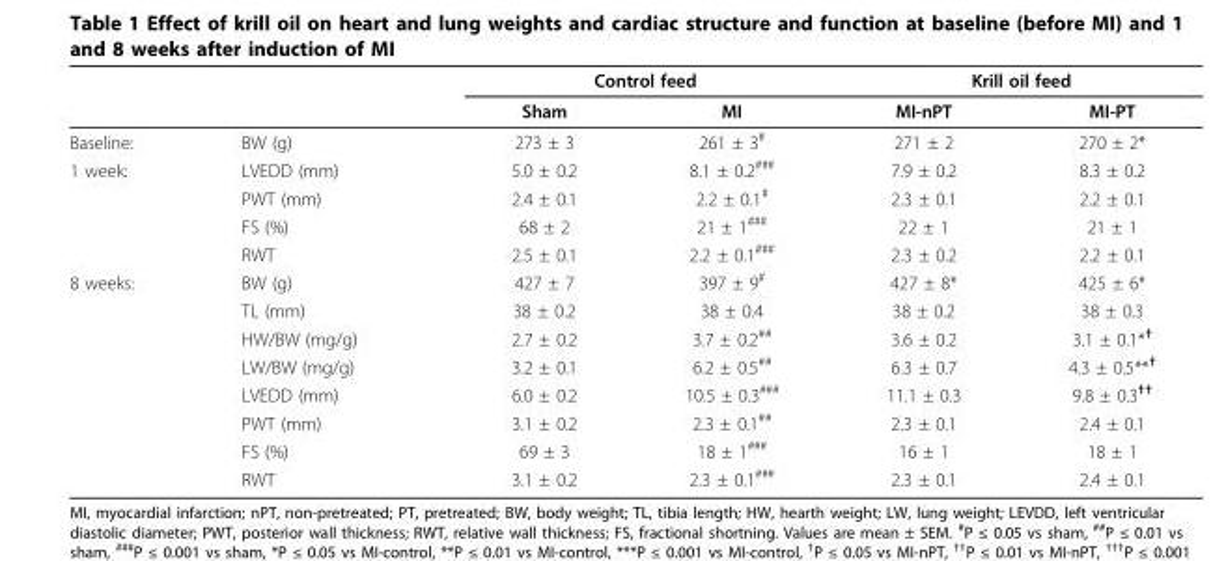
<table><thead><tr><td rowspan="2"></td><td rowspan="2"></td><td colspan="2">Control feed</td><td colspan="2">Krill oil feed</td></tr><tr><td>Sham</td><td>MI</td><td>MI-nPT</td><td>MI-PT</td></tr></thead><tbody><tr><td>Baseline:</td><td>BW (g)</td><td>273 ± 3</td><td>261 ± 3<sup>#</sup></td><td>271 ± 2</td><td>270 ± 2*</td></tr><tr><td rowspan="4">1 week:</td><td>LVEDD (mm)</td><td>5.0 ± 0.2</td><td>8.1 ± 0.2<sup>###</sup></td><td>7.9 ± 0.2</td><td>8.3 ± 0.2</td></tr><tr><td>PWT (mm)</td><td>2.4 ± 0.1</td><td>2.2 ± 0.1<sup>#</sup></td><td>2.3 ± 0.1</td><td>2.2 ± 0.1</td></tr><tr><td>FS (%)</td><td>68 ± 2</td><td>21 ± 1<sup>###</sup></td><td>22 ± 1</td><td>21 ± 1</td></tr><tr><td>RWT</td><td>2.5 ± 0.1</td><td>2.2 ± 0.1<sup>###</sup></td><td>2.3 ± 0.2</td><td>2.2 ± 0.1</td></tr><tr><td rowspan="8">8 weeks:</td><td>BW (g)</td><td>427 ± 7</td><td>397 ± 9<sup>#</sup></td><td>427 ± 8*</td><td>425 ± 6*</td></tr><tr><td>TL (mm)</td><td>38 ± 0.2</td><td>38 ± 0.4</td><td>38 ± 0.2</td><td>38 ± 0.3</td></tr><tr><td>HW/BW (mg/g)</td><td>2.7 ± 0.2</td><td>3.7 ± 0.2<sup>##</sup></td><td>3.6 ± 0.2</td><td>3.1 ± 0.1*<sup>†</sup></td></tr><tr><td>LW/BW (mg/g)</td><td>3.2 ± 0.1</td><td>6.2 ± 0.5<sup>##</sup></td><td>6.3 ± 0.7</td><td>4.3 ± 0.5**<sup>†</sup></td></tr><tr><td>LVEDD (mm)</td><td>6.0 ± 0.2</td><td>10.5 ± 0.3<sup>###</sup></td><td>11.1 ± 0.3</td><td>9.8 ± 0.3<sup>††</sup></td></tr><tr><td>PWT (mm)</td><td>3.1 ± 0.2</td><td>2.3 ± 0.1<sup>##</sup></td><td>2.3 ± 0.1</td><td>2.4 ± 0.1</td></tr><tr><td>FS (%)</td><td>69 ± 3</td><td>18 ± 1<sup>###</sup></td><td>16 ± 1</td><td>18 ± 1</td></tr><tr><td>RWT</td><td>3.1 ± 0.2</td><td>2.3 ± 0.1<sup>###</sup></td><td>2.3 ± 0.1</td><td>2.4 ± 0.1</td></tr></tbody></table>